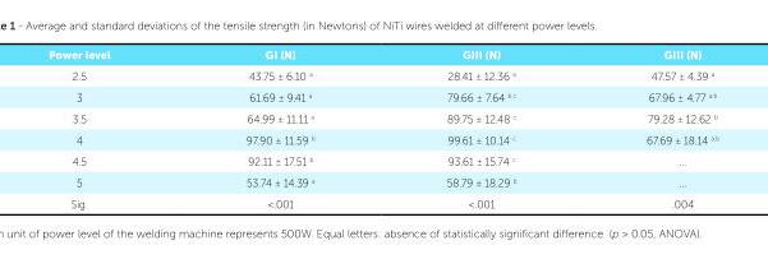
<table><tbody><tr><td>Power level</td><td>GI (N)</td><td>GIII (N)</td><td>GIII (N)</td></tr><tr><td>2.5</td><td>43.75 ± 6.10 <sup>a</sup></td><td>28.41 ± 12.36 <sup>a</sup></td><td>47.57 ± 4.39 <sup>a</sup></td></tr><tr><td>3</td><td>61.69 ± 9.41 <sup>a</sup></td><td>79.66 ± 7.64 <sup>b.c</sup></td><td>67.96 ± 4.77 <sup>a.b</sup></td></tr><tr><td>3.5</td><td>64.99 ± 11.11 <sup>a</sup></td><td>89.75 ± 12.48 <sup>c</sup></td><td>79.28 ± 12.62 <sup>b</sup></td></tr><tr><td>4</td><td>97.90 ± 11.59 <sup>b</sup></td><td>99.61 ± 10.14 <sup>c</sup></td><td>67.69 ± 18.14 <sup>a.b</sup></td></tr><tr><td>4.5</td><td>92.11 ± 17.51 <sup>b</sup></td><td>93.61 ± 15.74 <sup>c</sup></td><td>...</td></tr><tr><td>5</td><td>53.74 ± 14.39 <sup>a</sup></td><td>58.79 ± 18.29 <sup>b</sup></td><td>...</td></tr><tr><td>Sig.</td><td>&lt;.001</td><td>&lt;.001</td><td>.004</td></tr></tbody></table>